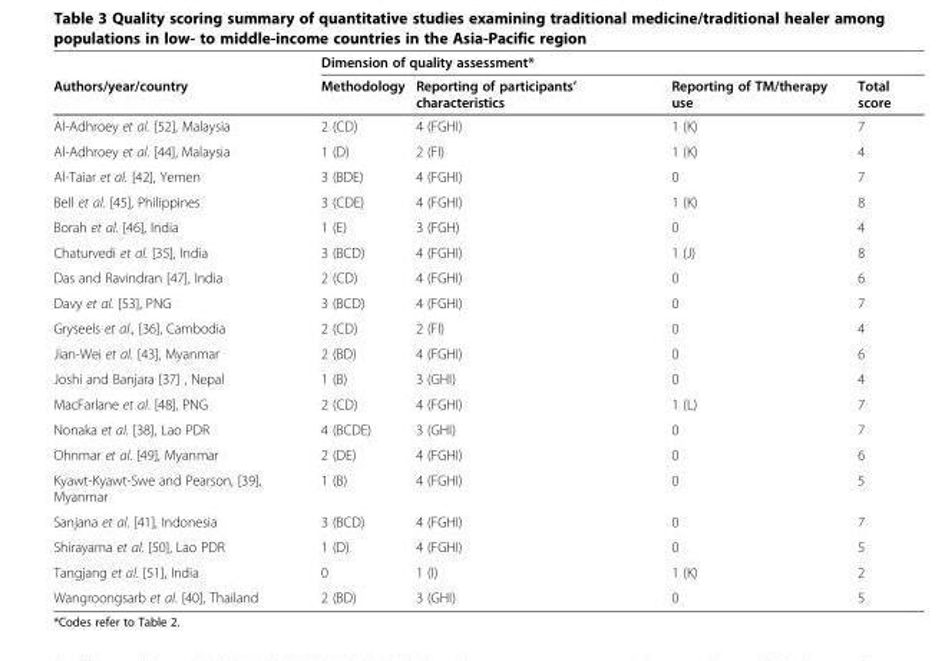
<table><thead><tr><td rowspan="2">Authors/year/country</td><td colspan="4">Dimension of quality assessment*</td></tr><tr><td>Methodology</td><td>Reporting of participants’ characteristics</td><td>Reporting of TM/therapy use</td><td>Total score</td></tr></thead><tbody><tr><td>Al-Adhroey et al. [52], Malaysia</td><td>2 (CD)</td><td>4 (FGHI)</td><td>1 (K)</td><td>7</td></tr><tr><td>Al-Adhroey et al. [44], Malaysia</td><td>1 (D)</td><td>2 (FI)</td><td>1 (K)</td><td>4</td></tr><tr><td>Al-Taiar et al. [42], Yemen</td><td>3 (BDE)</td><td>4 (FGHI)</td><td>0</td><td>7</td></tr><tr><td>Bell et al. [45], Philippines</td><td>3 (CDE)</td><td>4 (FGHI)</td><td>1 (K)</td><td>8</td></tr><tr><td>Borah et al. [46], India</td><td>1 (E)</td><td>3 (FGH)</td><td>0</td><td>4</td></tr><tr><td>Chaturvedi et al. [35], India</td><td>3 (BCD)</td><td>4 (FGHI)</td><td>1 (J)</td><td>8</td></tr><tr><td>Das and Ravindran [47], India</td><td>2 (CD)</td><td>4 (FGHI)</td><td>0</td><td>6</td></tr><tr><td>Davy et al. [53], PNG</td><td>3 (BCD)</td><td>4 (FGHI)</td><td>0</td><td>7</td></tr><tr><td>Gryseels et al., [36], Cambodia</td><td>2 (CD)</td><td>2 (FI)</td><td>0</td><td>4</td></tr><tr><td>Jian-Wei et al. [43], Myanmar</td><td>2 (BD)</td><td>4 (FGHI)</td><td>0</td><td>6</td></tr><tr><td>Joshi and Banjara [37] , Nepal</td><td>1 (B)</td><td>3 (GHI)</td><td>0</td><td>4</td></tr><tr><td>MacFarlane et al. [48], PNG</td><td>2 (CD)</td><td>4 (FGHI)</td><td>1 (L)</td><td>7</td></tr><tr><td>Nonaka et al. [38], Lao PDR</td><td>4 (BCDE)</td><td>3 (GHI)</td><td>0</td><td>7</td></tr><tr><td>Ohnmar et al. [49], Myanmar</td><td>2 (DE)</td><td>4 (FGHI)</td><td>0</td><td>6</td></tr><tr><td>Kyawt-Kyawt-Swe and Pearson, [39], Myanmar</td><td>1 (B)</td><td>4 (FGHI)</td><td>0</td><td>5</td></tr><tr><td>Sanjana et al. [41], Indonesia</td><td>3 (BCD)</td><td>4 (FGHI)</td><td>0</td><td>7</td></tr><tr><td>Shirayama et al. [50], Lao PDR</td><td>1 (D)</td><td>4 (FGHI)</td><td>0</td><td>5</td></tr><tr><td>Tangjang et al. [51], India</td><td>0</td><td>1 (I)</td><td>1 (K)</td><td>2</td></tr><tr><td>Wangroongsarb et al. [40], Thailand</td><td>2 (BD)</td><td>3 (GHI)</td><td>0</td><td>5</td></tr></tbody></table>